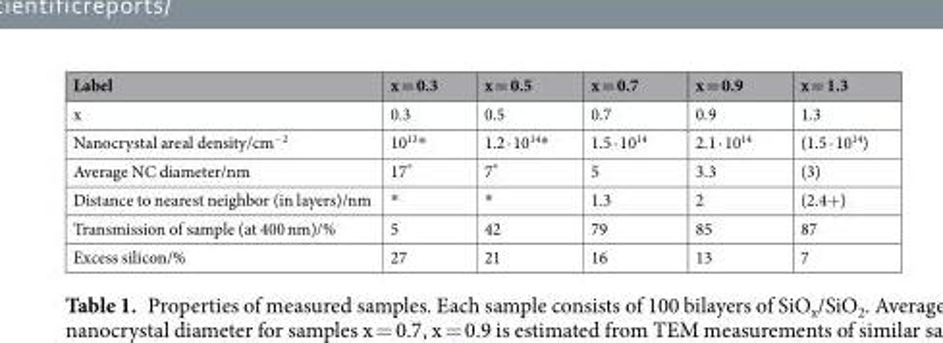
<table><thead><tr><td>Label</td><td>x = 0.3</td><td>x = 0.5</td><td>x = 0.7</td><td>x = 0.9</td><td>x = 1.3</td></tr></thead><tbody><tr><td>x</td><td>0.3</td><td>0.5</td><td>0.7</td><td>0.9</td><td>1.3</td></tr><tr><td>Nanocrystal areal density/cm<sup>−2</sup></td><td>10<sup>13</sup>*</td><td>1.2 · 10<sup>14</sup>*</td><td>1.5 · 10<sup>14</sup></td><td>2.1 · 10<sup>14</sup></td><td>(1.5 · 10<sup>14</sup>)</td></tr><tr><td>Average NC diameter/nm</td><td>17*</td><td>7*</td><td>5</td><td>3.3</td><td>(3)</td></tr><tr><td>Distance to nearest neighbor (in layers)/nm</td><td>*</td><td>*</td><td>1.3</td><td>2</td><td>(2.4+)</td></tr><tr><td>Transmission of sample (at 400 nm)/%</td><td>5</td><td>42</td><td>79</td><td>85</td><td>87</td></tr><tr><td>Excess silicon/%</td><td>27</td><td>21</td><td>16</td><td>13</td><td>7</td></tr></tbody></table>